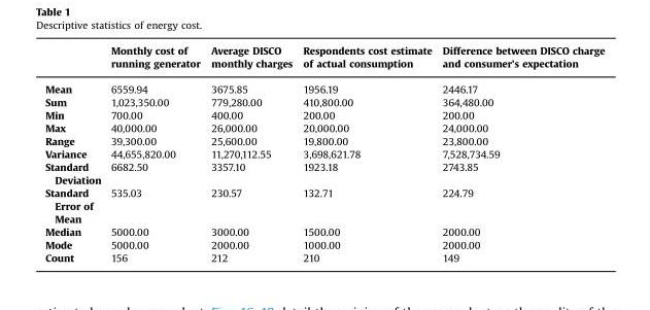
<table><thead><tr><td></td><td>Monthly cost of running generator</td><td>Average DISCO monthly charges</td><td>Respondents cost estimate of actual consumption</td><td>Difference between DISCO charge and consumer&#x27;s expectation</td></tr></thead><tbody><tr><td>Mean</td><td>6559.94</td><td>3675.85</td><td>1956.19</td><td>2446.17</td></tr><tr><td>Sum</td><td>1,023,350.00</td><td>779,280.00</td><td>410,800.00</td><td>364,480.00</td></tr><tr><td>Min</td><td>700.00</td><td>400.00</td><td>200.00</td><td>200.00</td></tr><tr><td>Max</td><td>40,000.00</td><td>26,000.00</td><td>20,000.00</td><td>24,000.00</td></tr><tr><td>Range</td><td>39,300.00</td><td>25,600.00</td><td>19,800.00</td><td>23,800.00</td></tr><tr><td>Variance</td><td>44,655,820.00</td><td>11,270,112.55</td><td>3,698,621.78</td><td>7,528,734.59</td></tr><tr><td>Standard Deviation</td><td>6682.50</td><td>3357.10</td><td>1923.18</td><td>2743.85</td></tr><tr><td>Standard Error of Mean</td><td>535.03</td><td>230.57</td><td>132.71</td><td>224.79</td></tr><tr><td>Median</td><td>5000.00</td><td>3000.00</td><td>1500.00</td><td>2000.00</td></tr><tr><td>Mode</td><td>5000.00</td><td>2000.00</td><td>1000.00</td><td>2000.00</td></tr><tr><td>Count</td><td>156</td><td>212</td><td>210</td><td>149</td></tr></tbody></table>